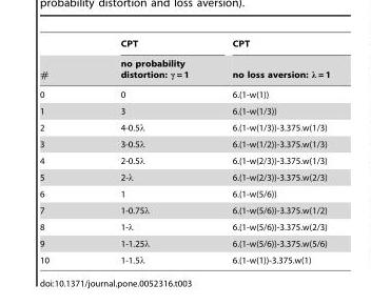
<table><thead><tr><td rowspan="2">#</td><td rowspan="2">CPT no probability distortion: γ = 1</td><td rowspan="2">CPT no loss aversion: λ = 1</td></tr><tr></tr></thead><tbody><tr><td>0</td><td>0</td><td>6.(1-w(1))</td></tr><tr><td>1</td><td>3</td><td>6.(1-w(1/3))</td></tr><tr><td>2</td><td>4-0.5λ</td><td>6.(1-w(1/3))-3.375.w(1/3)</td></tr><tr><td>3</td><td>3-0.5λ</td><td>6.(1-w(1/2))-3.375.w(1/3)</td></tr><tr><td>4</td><td>2-0.5λ</td><td>6.(1-w(2/3))-3.375.w(1/3)</td></tr><tr><td>5</td><td>2-λ</td><td>6.(1-w(2/3))-3.375.w(2/3)</td></tr><tr><td>6</td><td>1</td><td>6.(1-w(5/6))</td></tr><tr><td>7</td><td>1-0.75λ</td><td>6.(1-w(5/6))-3.375.w(1/2)</td></tr><tr><td>8</td><td>1-λ</td><td>6.(1-w(5/6))-3.375.w(2/3)</td></tr><tr><td>9</td><td>1-1.25λ</td><td>6.(1-w(5/6))-3.375.w(5/6)</td></tr><tr><td>10</td><td>1-1.5λ</td><td>6.(1-w(1))-3.375.w(1)</td></tr></tbody></table>